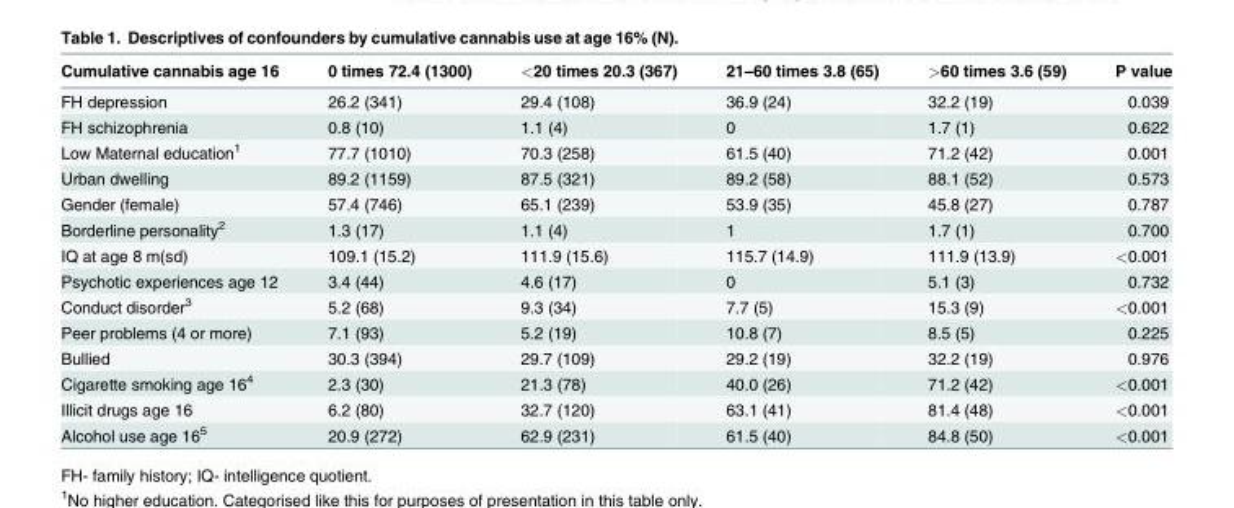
<table><thead><tr><td>Cumulative cannabis age 16</td><td>0 times 72.4 (1300)</td><td>&lt;20 times 20.3 (367)</td><td>21–60 times 3.8 (65)</td><td>&gt;60 times 3.6 (59)</td><td>P value</td></tr></thead><tbody><tr><td>FH depression</td><td>26.2 (341)</td><td>29.4 (108)</td><td>36.9 (24)</td><td>32.2 (19)</td><td>0.039</td></tr><tr><td>FH schizophrenia</td><td>0.8 (10)</td><td>1.1 (4)</td><td>0</td><td>1.7 (1)</td><td>0.622</td></tr><tr><td>Low Maternal education<sup>1</sup></td><td>77.7 (1010)</td><td>70.3 (258)</td><td>61.5 (40)</td><td>71.2 (42)</td><td>0.001</td></tr><tr><td>Urban dwelling</td><td>89.2 (1159)</td><td>87.5 (321)</td><td>89.2 (58)</td><td>88.1 (52)</td><td>0.573</td></tr><tr><td>Gender (female)</td><td>57.4 (746)</td><td>65.1 (239)</td><td>53.9 (35)</td><td>45.8 (27)</td><td>0.787</td></tr><tr><td>Borderline personality<sup>2</sup></td><td>1.3 (17)</td><td>1.1 (4)</td><td>1</td><td>1.7 (1)</td><td>0.700</td></tr><tr><td>IQ at age 8 m(sd)</td><td>109.1 (15.2)</td><td>111.9 (15.6)</td><td>115.7 (14.9)</td><td>111.9 (13.9)</td><td>&lt;0.001</td></tr><tr><td>Psychotic experiences age 12</td><td>3.4 (44)</td><td>4.6 (17)</td><td>0</td><td>5.1 (3)</td><td>0.732</td></tr><tr><td>Conduct disorder<sup>3</sup></td><td>5.2 (68)</td><td>9.3 (34)</td><td>7.7 (5)</td><td>15.3 (9)</td><td>&lt;0.001</td></tr><tr><td>Peer problems (4 or more)</td><td>7.1 (93)</td><td>5.2 (19)</td><td>10.8 (7)</td><td>8.5 (5)</td><td>0.225</td></tr><tr><td>Bullied</td><td>30.3 (394)</td><td>29.7 (109)</td><td>29.2 (19)</td><td>32.2 (19)</td><td>0.976</td></tr><tr><td>Cigarette smoking age 16<sup>4</sup></td><td>2.3 (30)</td><td>21.3 (78)</td><td>40.0 (26)</td><td>71.2 (42)</td><td>&lt;0.001</td></tr><tr><td>Illicit drugs age 16</td><td>6.2 (80)</td><td>32.7 (120)</td><td>63.1 (41)</td><td>81.4 (48)</td><td>&lt;0.001</td></tr><tr><td>Alcohol use age 16<sup>5</sup></td><td>20.9 (272)</td><td>62.9 (231)</td><td>61.5 (40)</td><td>84.8 (50)</td><td>&lt;0.001</td></tr></tbody></table>